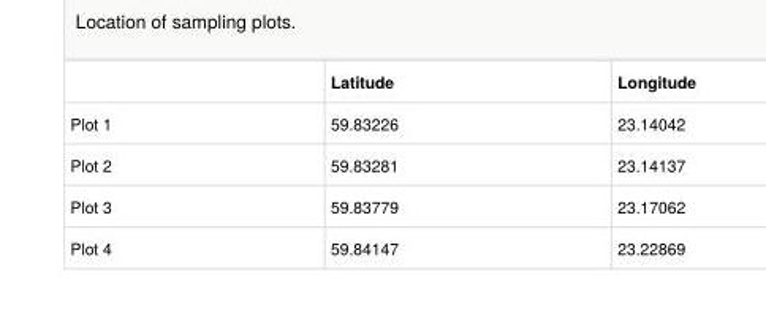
<table><thead><tr><td></td><td>Latitude</td><td>Longitude</td></tr></thead><tbody><tr><td>Plot 1</td><td>59.83226</td><td>23.14042</td></tr><tr><td>Plot 2</td><td>59.83281</td><td>23.14137</td></tr><tr><td>Plot 3</td><td>59.83779</td><td>23.17062</td></tr><tr><td>Plot 4</td><td>59.84147</td><td>23.22869</td></tr></tbody></table>